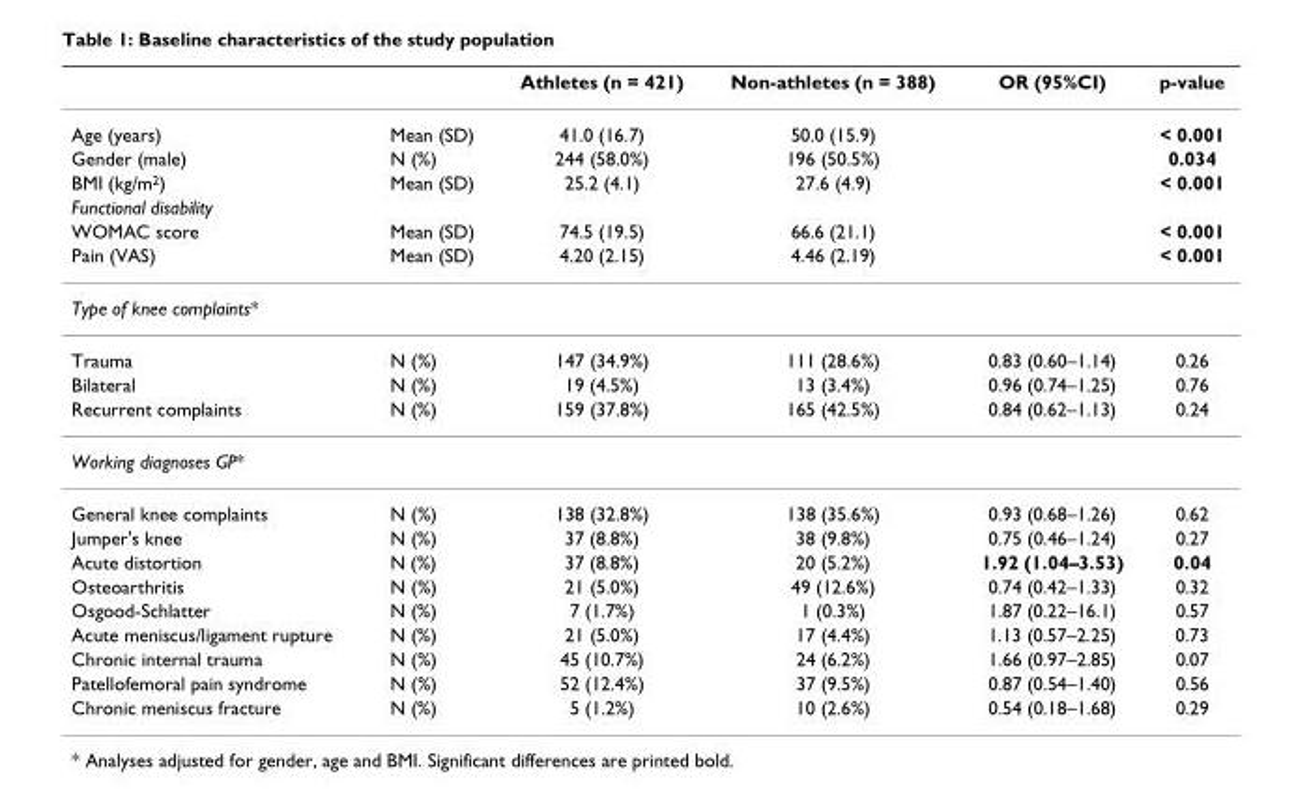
<table><thead><tr><td></td><td></td><td>Athletes (n = 421)</td><td>Non-athletes (n = 388)</td><td>OR (95%CI)</td><td>p-value</td></tr></thead><tbody><tr><td>Age (years)</td><td>Mean (SD)</td><td>41.0 (16.7)</td><td>50.0 (15.9)</td><td></td><td>&lt; 0.001</td></tr><tr><td>Gender (male)</td><td>N (%)</td><td>244 (58.0%)</td><td>196 (50.5%)</td><td></td><td>0.034</td></tr><tr><td>BMI (kg/m<sup>2</sup>)</td><td>Mean (SD)</td><td>25.2 (4.1)</td><td>27.6 (4.9)</td><td></td><td>&lt; 0.001</td></tr><tr><td colspan="6">Functional disability</td></tr><tr><td>WOMAC score</td><td>Mean (SD)</td><td>74.5 (19.5)</td><td>66.6 (21.1)</td><td></td><td>&lt; 0.001</td></tr><tr><td>Pain (VAS)</td><td>Mean (SD)</td><td>4.20 (2.15)</td><td>4.46 (2.19)</td><td></td><td>&lt; 0.001</td></tr><tr><td colspan="6">Type of knee complaints*</td></tr><tr><td>Trauma</td><td>N (%)</td><td>147 (34.9%)</td><td>111 (28.6%)</td><td>0.83 (0.60–1.14)</td><td>0.26</td></tr><tr><td>Bilateral</td><td>N (%)</td><td>19 (4.5%)</td><td>13 (3.4%)</td><td>0.96 (0.74–1.25)</td><td>0.76</td></tr><tr><td>Recurrent complaints</td><td>N (%)</td><td>159 (37.8%)</td><td>165 (42.5%)</td><td>0.84 (0.62–1.13)</td><td>0.24</td></tr><tr><td colspan="6">Working diagnoses GP*</td></tr><tr><td>General knee complaints</td><td>N (%)</td><td>138 (32.8%)</td><td>138 (35.6%)</td><td>0.93 (0.68–1.26)</td><td>0.62</td></tr><tr><td>Jumper&#x27;s knee</td><td>N (%)</td><td>37 (8.8%)</td><td>38 (9.8%)</td><td>0.75 (0.46–1.24)</td><td>0.27</td></tr><tr><td>Acute distortion</td><td>N (%)</td><td>37 (8.8%)</td><td>20 (5.2%)</td><td>1.92 (1.04–3.53)</td><td>0.04</td></tr><tr><td>Osteoarthritis</td><td>N (%)</td><td>21 (5.0%)</td><td>49 (12.6%)</td><td>0.74 (0.42–1.33)</td><td>0.32</td></tr><tr><td>Osgood-Schlatter</td><td>N (%)</td><td>7 (1.7%)</td><td>1 (0.3%)</td><td>1.87 (0.22–16.1)</td><td>0.57</td></tr><tr><td>Acute meniscus/ligament rupture</td><td>N (%)</td><td>21 (5.0%)</td><td>17 (4.4%)</td><td>1.13 (0.57–2.25)</td><td>0.73</td></tr><tr><td>Chronic internal trauma</td><td>N (%)</td><td>45 (10.7%)</td><td>24 (6.2%)</td><td>1.66 (0.97–2.85)</td><td>0.07</td></tr><tr><td>Patellofemoral pain syndrome</td><td>N (%)</td><td>52 (12.4%)</td><td>37 (9.5%)</td><td>0.87 (0.54–1.40)</td><td>0.56</td></tr><tr><td>Chronic meniscus fracture</td><td>N (%)</td><td>5 (1.2%)</td><td>10 (2.6%)</td><td>0.54 (0.18–1.68)</td><td>0.29</td></tr></tbody></table>